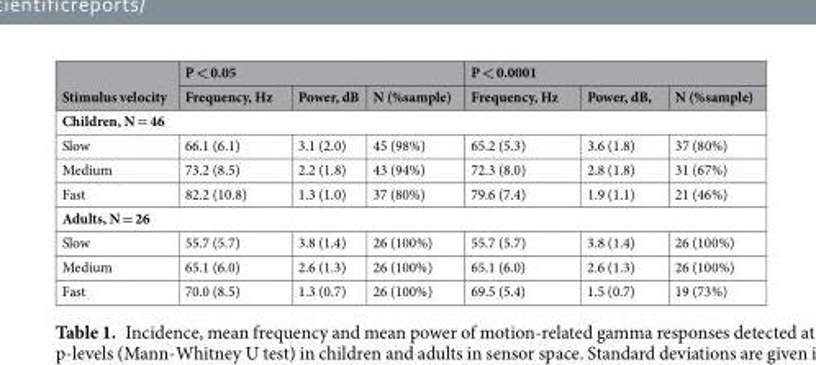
<table><thead><tr><td rowspan="2">Stimulus velocity</td><td colspan="3">P &lt; 0.05</td><td colspan="3">P &lt; 0.0001</td></tr><tr><td>Frequency, Hz</td><td>Power, dB</td><td>N (%sample)</td><td>Frequency, Hz</td><td>Power, dB,</td><td>N (%sample)</td></tr></thead><tbody><tr><td colspan="7">Children, N = 46</td></tr><tr><td>Slow</td><td>66.1 (6.1)</td><td>3.1 (2.0)</td><td>45 (98%)</td><td>65.2 (5.3)</td><td>3.6 (1.8)</td><td>37 (80%)</td></tr><tr><td>Medium</td><td>73.2 (8.5)</td><td>2.2 (1.8)</td><td>43 (94%)</td><td>72.3 (8.0)</td><td>2.8 (1.8)</td><td>31 (67%)</td></tr><tr><td>Fast</td><td>82.2 (10.8)</td><td>1.3 (1.0)</td><td>37 (80%)</td><td>79.6 (7.4)</td><td>1.9 (1.1)</td><td>21 (46%)</td></tr><tr><td colspan="7">Adults, N = 26</td></tr><tr><td>Slow</td><td>55.7 (5.7)</td><td>3.8 (1.4)</td><td>26 (100%)</td><td>55.7 (5.7)</td><td>3.8 (1.4)</td><td>26 (100%)</td></tr><tr><td>Medium</td><td>65.1 (6.0)</td><td>2.6 (1.3)</td><td>26 (100%)</td><td>65.1 (6.0)</td><td>2.6 (1.3)</td><td>26 (100%)</td></tr><tr><td>Fast</td><td>70.0 (8.5)</td><td>1.3 (0.7)</td><td>26 (100%)</td><td>69.5 (5.4)</td><td>1.5 (0.7)</td><td>19 (73%)</td></tr></tbody></table>